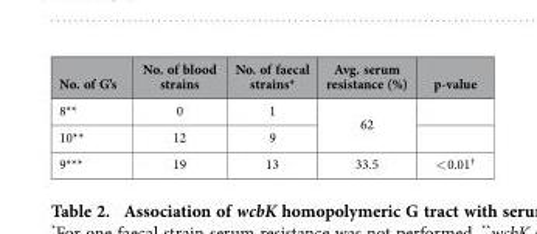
<table><thead><tr><td>No. of G’s</td><td>No. of blood strains</td><td>No. of faecal strains*</td><td>Avg. serum resistance (%)</td><td>p-value</td></tr></thead><tbody><tr><td>8**</td><td>0</td><td>1</td><td rowspan="2">62</td><td></td></tr><tr><td>10**</td><td>12</td><td>9</td><td></td></tr><tr><td>9***</td><td>19</td><td>13</td><td>33.5</td><td>&lt; 0.01†</td></tr></tbody></table>